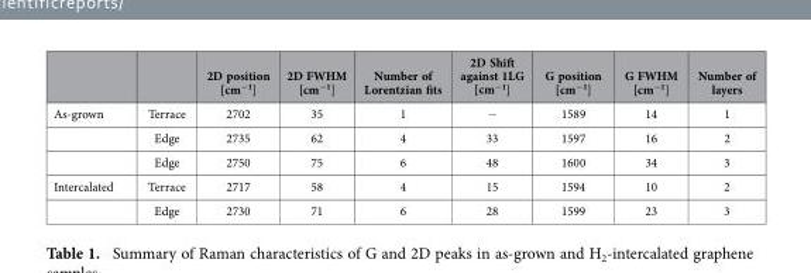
<table><thead><tr><td></td><td></td><td>2D position [cm<sup>−1</sup>]</td><td>2D FWHM [cm<sup>−1</sup>]</td><td>Number of Lorentzian fits</td><td>2D Shift against 1LG [cm<sup>−1</sup>]</td><td>G position [cm<sup>−1</sup>]</td><td>G FWHM [cm<sup>−1</sup>]</td><td>Number of layers</td></tr></thead><tbody><tr><td rowspan="3">As-grown</td><td>Terrace</td><td>2702</td><td>35</td><td>1</td><td>−</td><td>1589</td><td>14</td><td>1</td></tr><tr><td>Edge</td><td>2735</td><td>62</td><td>4</td><td>33</td><td>1597</td><td>16</td><td>2</td></tr><tr><td>Edge</td><td>2750</td><td>75</td><td>6</td><td>48</td><td>1600</td><td>34</td><td>3</td></tr><tr><td rowspan="2">Intercalated</td><td>Terrace</td><td>2717</td><td>58</td><td>4</td><td>15</td><td>1594</td><td>10</td><td>2</td></tr><tr><td>Edge</td><td>2730</td><td>71</td><td>6</td><td>28</td><td>1599</td><td>23</td><td>3</td></tr></tbody></table>